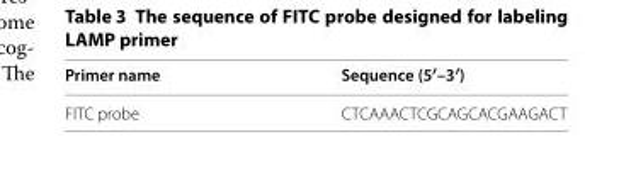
<table><thead><tr><td>Primer name</td><td>Sequence (5′–3′)</td></tr></thead><tbody><tr><td>FITC probe</td><td>CTC AAA CTC GCA GCA CGA AGACT</td></tr></tbody></table>